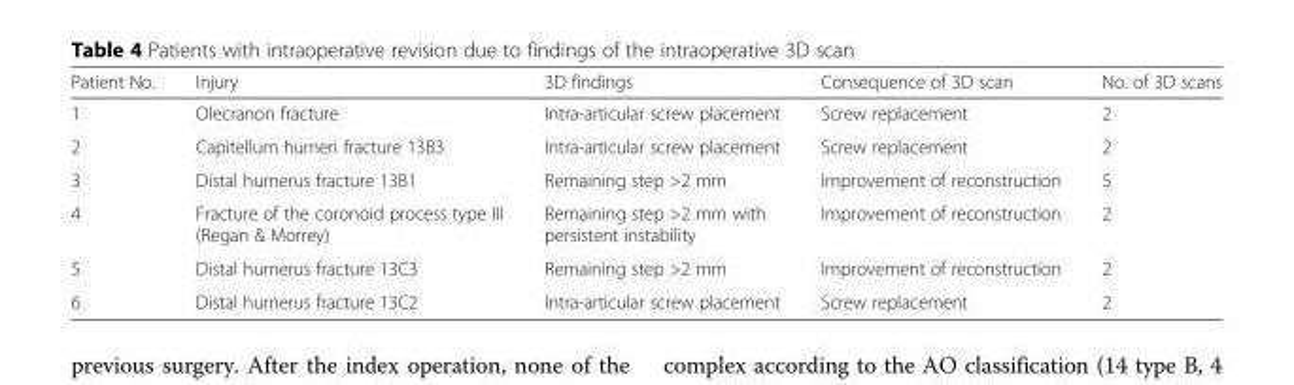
<table><thead><tr><td>Patient No.</td><td>Injury</td><td>3D findings</td><td>Consequence of 3D scan</td><td>No. of 3D scans</td></tr></thead><tbody><tr><td>1</td><td>Olecranon fracture</td><td>Intra-articular screw placement</td><td>Screw replacement</td><td>2</td></tr><tr><td>2</td><td>Capitellum humeri fracture 13B3</td><td>Intra-articular screw placement</td><td>Screw replacement</td><td>2</td></tr><tr><td>3</td><td>Distal humerus fracture 13B1</td><td>Remaining step &gt;2 mm</td><td>Improvement of reconstruction</td><td>5</td></tr><tr><td>4</td><td>Fracture of the coronoid process type III (Regan &amp; Morrey)</td><td>Remaining step &gt;2 mm with persistent instability</td><td>Improvement of reconstruction</td><td>2</td></tr><tr><td>5</td><td>Distal humerus fracture 13C3</td><td>Remaining step &gt;2 mm</td><td>Improvement of reconstruction</td><td>2</td></tr><tr><td>6</td><td>Distal humerus fracture 13C2</td><td>Intra-articular screw placement</td><td>Screw replacement</td><td>2</td></tr></tbody></table>